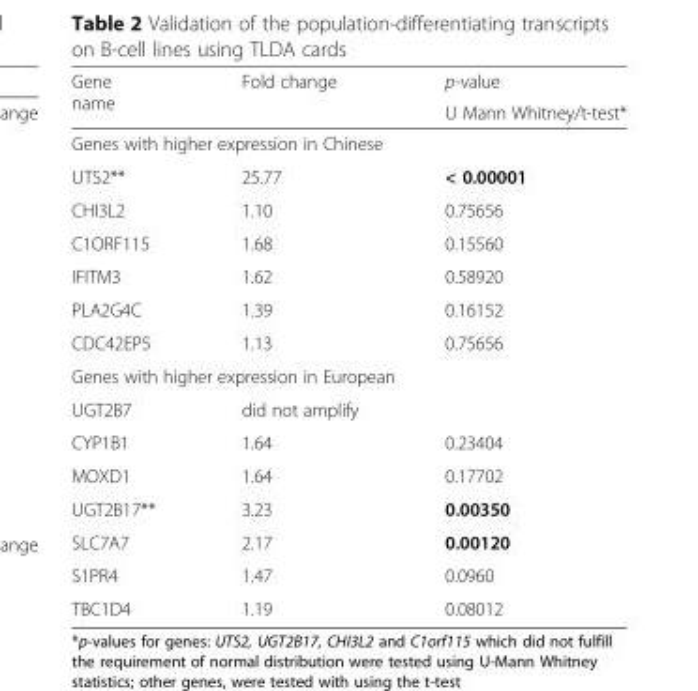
<table><thead><tr><td rowspan="2">Gene name</td><td rowspan="2">Fold change</td><td rowspan="2">p-value U Mann Whitney/t-test*</td></tr><tr></tr></thead><tbody><tr><td colspan="3">Genes with higher expression in Chinese</td></tr><tr><td>UTS2**</td><td>25.77</td><td>&lt; 0.00001</td></tr><tr><td>CHI3L2</td><td>1.10</td><td>0.75656</td></tr><tr><td>C1ORF115</td><td>1.68</td><td>0.15560</td></tr><tr><td>IFITM3</td><td>1.62</td><td>0.58920</td></tr><tr><td>PLA2G4C</td><td>1.39</td><td>0.16152</td></tr><tr><td>CDC42EP5</td><td>1.13</td><td>0.75656</td></tr><tr><td colspan="3">Genes with higher expression in European</td></tr><tr><td>UGT2B7</td><td>did not amplify</td><td></td></tr><tr><td>CYP1B1</td><td>1.64</td><td>0.23404</td></tr><tr><td>MOXD1</td><td>1.64</td><td>0.17702</td></tr><tr><td>UGT2B17**</td><td>3.23</td><td>0.00350</td></tr><tr><td>SLC7A7</td><td>2.17</td><td>0.00120</td></tr><tr><td>S1PR4</td><td>1.47</td><td>0.0960</td></tr><tr><td>TBC1D4</td><td>1.19</td><td>0.08012</td></tr></tbody></table>